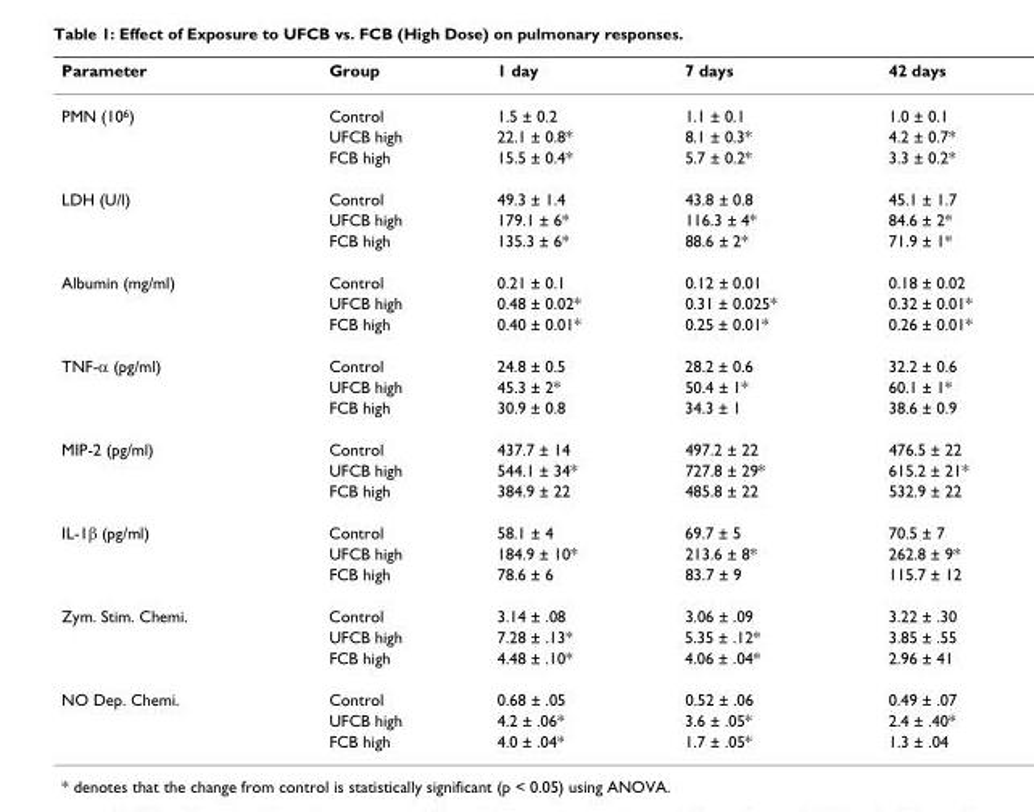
<table><thead><tr><td>Parameter</td><td>Group</td><td>1 day</td><td>7 days</td><td>42 days</td></tr></thead><tbody><tr><td rowspan="3">PMN (10<sup>6</sup>)</td><td>Control</td><td>1.5 ± 0.2</td><td>1.1 ± 0.1</td><td>1.0 ± 0.1</td></tr><tr><td>UFCB high</td><td>22.1 ± 0.8*</td><td>8.1 ± 0.3*</td><td>4.2 ± 0.7*</td></tr><tr><td>FCB high</td><td>15.5 ± 0.4*</td><td>5.7 ± 0.2*</td><td>3.3 ± 0.2*</td></tr><tr><td rowspan="3">LDH (U/l)</td><td>Control</td><td>49.3 ± 1.4</td><td>43.8 ± 0.8</td><td>45.1 ± 1.7</td></tr><tr><td>UFCB high</td><td>179.1 ± 6*</td><td>116.3 ± 4*</td><td>84.6 ± 2*</td></tr><tr><td>FCB high</td><td>135.3 ± 6*</td><td>88.6 ± 2*</td><td>71.9 ± 1*</td></tr><tr><td rowspan="3">Albumin (mg/ml)</td><td>Control</td><td>0.21 ± 0.1</td><td>0.12 ± 0.01</td><td>0.18 ± 0.02</td></tr><tr><td>UFCB high</td><td>0.48 ± 0.02*</td><td>0.31 ± 0.025*</td><td>0.32 ± 0.01*</td></tr><tr><td>FCB high</td><td>0.40 ± 0.01*</td><td>0.25 ± 0.01*</td><td>0.26 ± 0.01*</td></tr><tr><td rowspan="3">TNF-α (pg/ml)</td><td>Control</td><td>24.8 ± 0.5</td><td>28.2 ± 0.6</td><td>32.2 ± 0.6</td></tr><tr><td>UFCB high</td><td>45.3 ± 2*</td><td>50.4 ± 1*</td><td>60.1 ± 1*</td></tr><tr><td>FCB high</td><td>30.9 ± 0.8</td><td>34.3 ± 1</td><td>38.6 ± 0.9</td></tr><tr><td rowspan="3">MIP-2 (pg/ml)</td><td>Control</td><td>437.7 ± 14</td><td>497.2 ± 22</td><td>476.5 ± 22</td></tr><tr><td>UFCB high</td><td>544.1 ± 34*</td><td>727.8 ± 29*</td><td>615.2 ± 21*</td></tr><tr><td>FCB high</td><td>384.9 ± 22</td><td>485.8 ± 22</td><td>532.9 ± 22</td></tr><tr><td rowspan="3">IL-1β (pg/ml)</td><td>Control</td><td>58.1 ± 4</td><td>69.7 ± 5</td><td>70.5 ± 7</td></tr><tr><td>UFCB high</td><td>184.9 ± 10*</td><td>213.6 ± 8*</td><td>262.8 ± 9*</td></tr><tr><td>FCB high</td><td>78.6 ± 6</td><td>83.7 ± 9</td><td>115.7 ± 12</td></tr><tr><td rowspan="3">Zym. Stim. Chemi.</td><td>Control</td><td>3.14 ± .08</td><td>3.06 ± .09</td><td>3.22 ± .30</td></tr><tr><td>UFCB high</td><td>7.28 ± .13*</td><td>5.35 ± .12*</td><td>3.85 ± .55</td></tr><tr><td>FCB high</td><td>4.48 ± .10*</td><td>4.06 ± .04*</td><td>2.96 ± 41</td></tr><tr><td rowspan="3">NO Dep. Chemi.</td><td>Control</td><td>0.68 ± .05</td><td>0.52 ± .06</td><td>0.49 ± .07</td></tr><tr><td>UFCB high</td><td>4.2 ± .06*</td><td>3.6 ± .05*</td><td>2.4 ± .40*</td></tr><tr><td>FCB high</td><td>4.0 ± .04*</td><td>1.7 ± .05*</td><td>1.3 ± .04</td></tr></tbody></table>